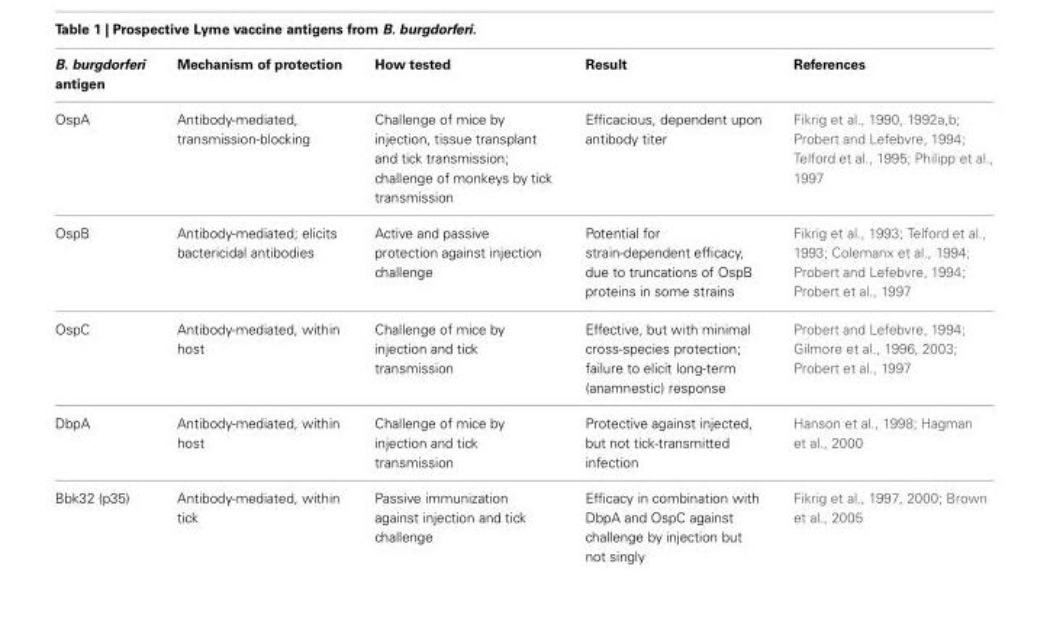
<table><thead><tr><td>B. burgdorferi antigen</td><td>Mechanism of protection</td><td>How tested</td><td>Result</td><td>References</td></tr></thead><tbody><tr><td>OspA</td><td>Antibody-mediated, transmission-blocking</td><td>Challenge of mice by injection, tissue transplant and tick transmission; challenge of monkeys by tick transmission</td><td>Efficacious, dependent upon antibody titer</td><td>Fikrig et al., 1990, 1992a,b; Probert and Lefebvre, 1994; Telford et al., 1995; Philipp et al., 1997</td></tr><tr><td>OspB</td><td>Antibody-mediated; elicits bactericidal antibodies</td><td>Active and passive protection against injection challenge</td><td>Potential for strain-dependent efficacy, due to truncations of OspB proteins in some strains</td><td>Fikrig et al., 1993; Telford et al., 1993; Colemanx et al., 1994; Probert and Lefebvre, 1994; Probert et al., 1997</td></tr><tr><td>OspC</td><td>Antibody-mediated, within host</td><td>Challenge of mice by injection and tick transmission</td><td>Effective, but with minimal cross-species protection; failure to elicit long-term (anamnestic) response</td><td>Probert and Lefebvre, 1994; Gilmore et al., 1996, 2003; Probert et al., 1997</td></tr><tr><td>DbpA</td><td>Antibody-mediated, within host</td><td>Challenge of mice by injection and tick transmission</td><td>Protective against injected, but not tick-transmitted infection</td><td>Hanson et al., 1998; Hagman et al., 2000</td></tr><tr><td>Bbk32 (p35)</td><td>Antibody-mediated, within tick</td><td>Passive immunization against injection and tick challenge</td><td>Efficacy in combination with DbpA and OspC against challenge by injection but not singly</td><td>Fikrig et al., 1997, 2000; Brown et al., 2005</td></tr></tbody></table>